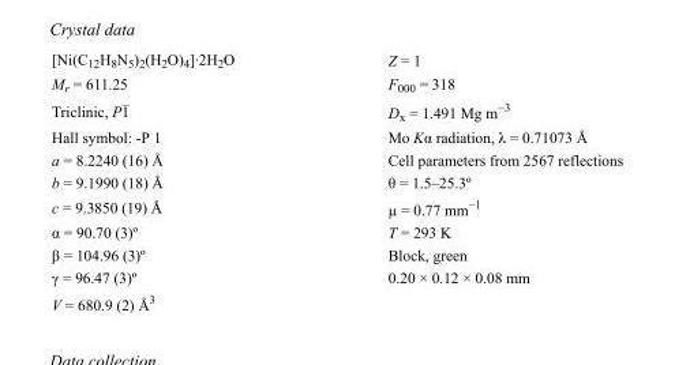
<table><tbody><tr><td>[Ni(C<sub>12</sub>H<sub>8</sub>N<sub>5</sub>)<sub>2</sub>(H<sub>2</sub>O)<sub>4</sub>]·2H<sub>2</sub>O</td><td>Z = 1</td></tr><tr><td>M<sub>r</sub> = 611.25</td><td>F000 = 318</td></tr><tr><td>Triclinic, P1</td><td>D<sub>x</sub> = 1.491 Mg m<sup>−3</sup></td></tr><tr><td>Hall symbol: -P 1</td><td>Mo Kα radiation, λ = 0.71073 Å</td></tr><tr><td>a = 8.2240 (16) Å</td><td>Cell parameters from 2567 reflections</td></tr><tr><td>b = 9.1990 (18) Å</td><td>θ = 1.5–25.3º</td></tr><tr><td>c = 9.3850 (19) Å</td><td>µ = 0.77 mm<sup>−1</sup></td></tr><tr><td>α = 90.70 (3)º</td><td>T = 293 K</td></tr><tr><td>β = 104.96 (3)º</td><td>Block, green</td></tr><tr><td>γ = 96.47 (3)º</td><td>0.20 × 0.12 × 0.08 mm</td></tr><tr><td>V = 680.9 (2) Å<sup>3</sup></td><td></td></tr></tbody></table>